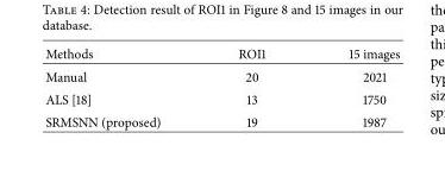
<table><thead><tr><td>Methods</td><td>ROI1</td><td>15 images</td></tr></thead><tbody><tr><td>Manual</td><td>20</td><td>2021</td></tr><tr><td>ALS [18]</td><td>13</td><td>1750</td></tr><tr><td>SRMSNN (proposed)</td><td>19</td><td>1987</td></tr></tbody></table>